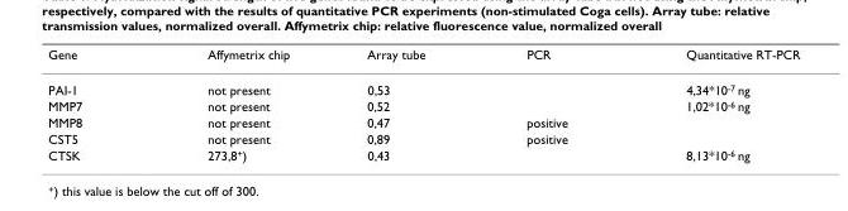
<table><thead><tr><td>Gene</td><td>Affymetrix chip</td><td>Array tube</td><td>PCR</td><td>Quantitative RT-PCR</td></tr></thead><tbody><tr><td>PAI-1</td><td>not present</td><td>0,53</td><td></td><td>4,34*10-7 ng</td></tr><tr><td>MMP7</td><td>not present</td><td>0,52</td><td></td><td>1,02*10-6 ng</td></tr><tr><td>MMP8</td><td>not present</td><td>0,47</td><td>positive</td><td></td></tr><tr><td>CST5</td><td>not present</td><td>0,89</td><td>positive</td><td></td></tr><tr><td>CTSK</td><td>273,8+)</td><td>0,43</td><td></td><td>8,13*10-6 ng</td></tr></tbody></table>